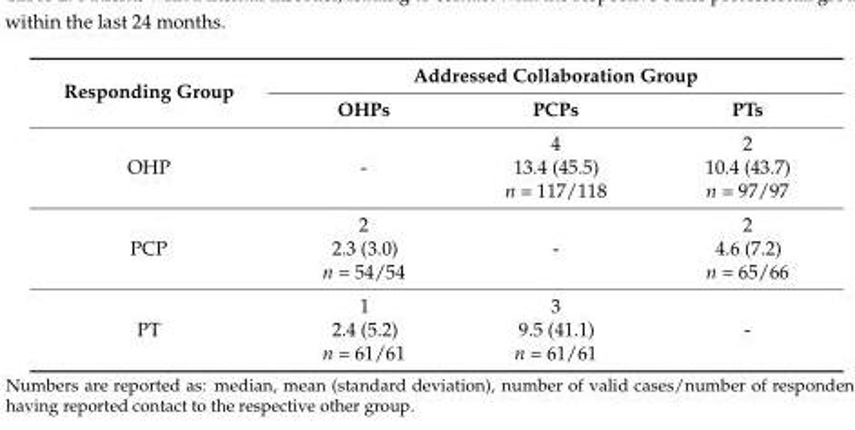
<table><thead><tr><td rowspan="2">Responding Group</td><td colspan="3">Addressed Collaboration Group</td></tr><tr><td>OHPs</td><td>PCPs</td><td>PTs</td></tr></thead><tbody><tr><td>OHP</td><td>-</td><td>4 13.4 (45.5) n = 117/118</td><td>2 10.4 (43.7) n = 97/97</td></tr><tr><td>PCP</td><td>2 2.3 (3.0) n = 54/54</td><td>-</td><td>2 4.6 (7.2) n = 65/66</td></tr><tr><td>PT</td><td>1 2.4 (5.2) n = 61/61</td><td>3 9.5 (41.1) n = 61/61</td><td>-</td></tr></tbody></table>